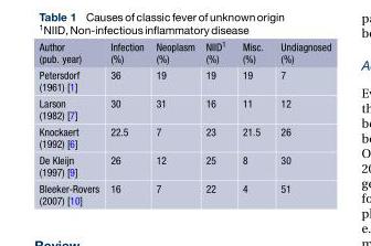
<table><thead><tr><td>Author (pub. year)</td><td>Infection (%)</td><td>Neoplasm (%)</td><td>NIID<sup>1</sup> (%)</td><td>Misc. (%)</td><td>Undiagnosed (%)</td></tr></thead><tbody><tr><td>Petersdorf (1961) [1]</td><td>36</td><td>19</td><td>19</td><td>19</td><td>7</td></tr><tr><td>Larson (1982) [7]</td><td>30</td><td>31</td><td>16</td><td>11</td><td>12</td></tr><tr><td>Knockaert (1992) [6]</td><td>22.5</td><td>7</td><td>23</td><td>21.5</td><td>26</td></tr><tr><td>De Kleijn (1997) [9]</td><td>26</td><td>12</td><td>25</td><td>8</td><td>30</td></tr><tr><td>Bleeker-Rovers (2007) [10]</td><td>16</td><td>7</td><td>22</td><td>4</td><td>51</td></tr></tbody></table>